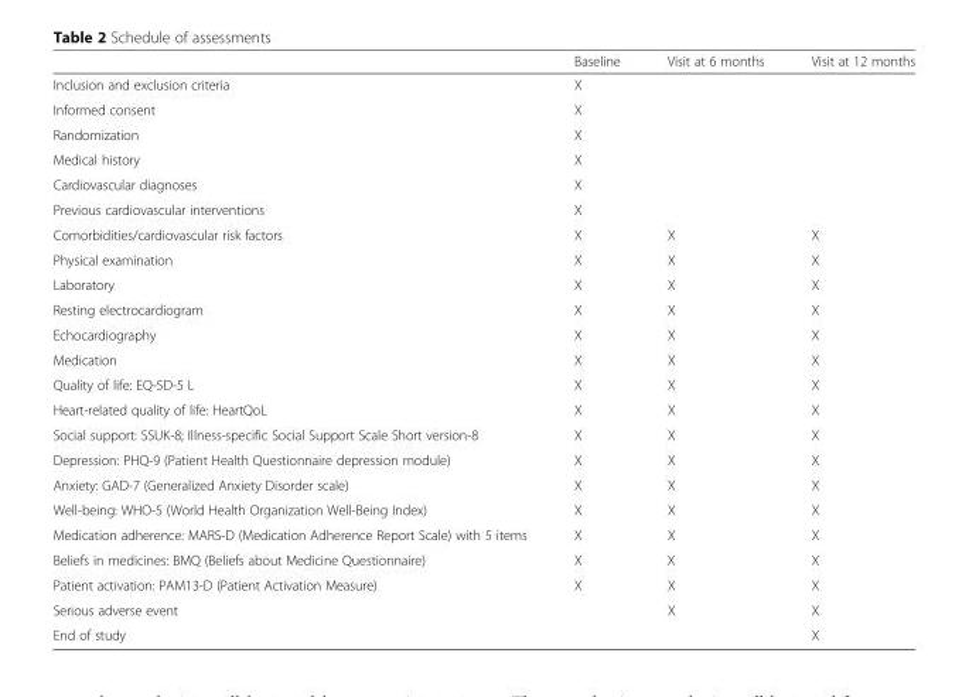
<table><thead><tr><td></td><td>Baseline</td><td>Visit at 6 months</td><td>Visit at 12 months</td></tr></thead><tbody><tr><td>Inclusion and exclusion criteria</td><td>X</td><td></td><td></td></tr><tr><td>Informed consent</td><td>X</td><td></td><td></td></tr><tr><td>Randomization</td><td>X</td><td></td><td></td></tr><tr><td>Medical history</td><td>X</td><td></td><td></td></tr><tr><td>Cardiovascular diagnoses</td><td>X</td><td></td><td></td></tr><tr><td>Previous cardiovascular interventions</td><td>X</td><td></td><td></td></tr><tr><td>Comorbidities/cardiovascular risk factors</td><td>X</td><td>X</td><td>X</td></tr><tr><td>Physical examination</td><td>X</td><td>X</td><td>X</td></tr><tr><td>Laboratory</td><td>X</td><td>X</td><td>X</td></tr><tr><td>Resting electrocardiogram</td><td>X</td><td>X</td><td>X</td></tr><tr><td>Echocardiography</td><td>X</td><td>X</td><td>X</td></tr><tr><td>Medication</td><td>X</td><td>X</td><td>X</td></tr><tr><td>Quality of life: EQ-5D-5 L</td><td>X</td><td>X</td><td>X</td></tr><tr><td>Heart-related quality of life: HeartQoL</td><td>X</td><td>X</td><td>X</td></tr><tr><td>Social support: SSUK-8; Illness-specific Social Support Scale Short version-8</td><td>X</td><td>X</td><td>X</td></tr><tr><td>Depression: PHQ-9 (Patient Health Questionnaire depression module)</td><td>X</td><td>X</td><td>X</td></tr><tr><td>Anxiety: GAD-7 (Generalized Anxiety Disorder scale)</td><td>X</td><td>X</td><td>X</td></tr><tr><td>Well-being: WHO-5 (World Health Organization Well-Being Index)</td><td>X</td><td>X</td><td>X</td></tr><tr><td>Medication adherence: MARS-D (Medication Adherence Report Scale) with 5 items</td><td>X</td><td>X</td><td>X</td></tr><tr><td>Beliefs in medicines: BMQ (Beliefs about Medicine Questionnaire)</td><td>X</td><td>X</td><td>X</td></tr><tr><td>Patient activation: PAM13-D (Patient Activation Measure)</td><td>X</td><td>X</td><td>X</td></tr><tr><td>Serious adverse event</td><td></td><td>X</td><td>X</td></tr><tr><td>End of study</td><td></td><td></td><td>X</td></tr></tbody></table>